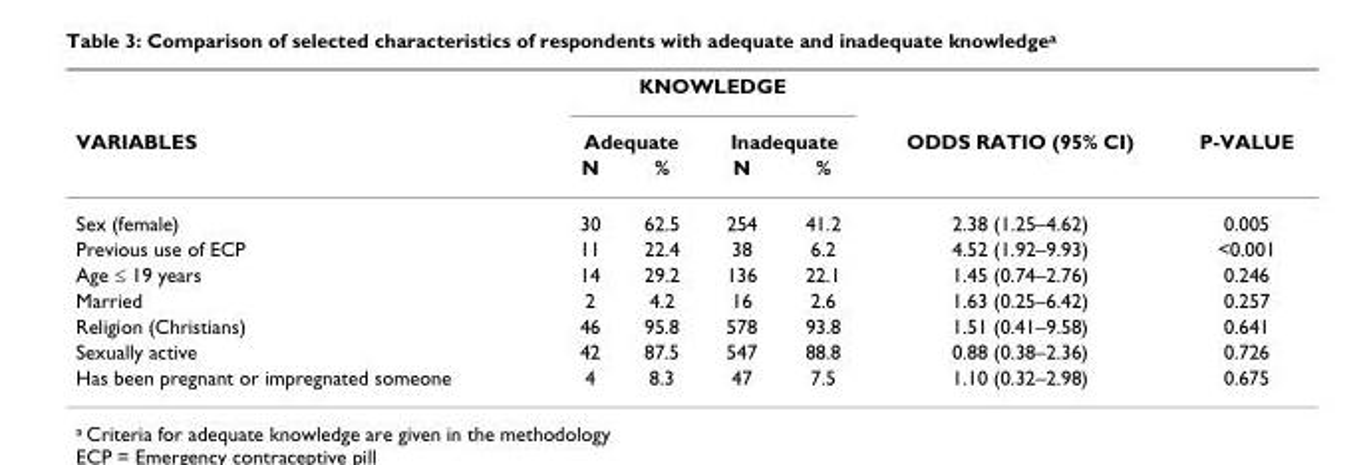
<table><thead><tr><td rowspan="3">VARIABLES</td><td colspan="4">KNOWLEDGE</td><td rowspan="3">ODDS RATIO (95% CI)</td><td rowspan="3">P-VALUE</td></tr><tr><td colspan="2">Adequate</td><td colspan="2">Inadequate</td></tr><tr><td>N</td><td>%</td><td>N</td><td>%</td></tr></thead><tbody><tr><td>Sex (female)</td><td>30</td><td>62.5</td><td>254</td><td>41.2</td><td>2.38 (1.25–4.62)</td><td>0.005</td></tr><tr><td>Previous use of ECP</td><td>11</td><td>22.4</td><td>38</td><td>6.2</td><td>4.52 (1.92–9.93)</td><td>&lt;0.001</td></tr><tr><td>Age ≤ 19 years</td><td>14</td><td>29.2</td><td>136</td><td>22.1</td><td>1.45 (0.74–2.76)</td><td>0.246</td></tr><tr><td>Married</td><td>2</td><td>4.2</td><td>16</td><td>2.6</td><td>1.63 (0.25–6.42)</td><td>0.257</td></tr><tr><td>Religion (Christians)</td><td>46</td><td>95.8</td><td>578</td><td>93.8</td><td>1.51 (0.41–9.58)</td><td>0.641</td></tr><tr><td>Sexually active</td><td>42</td><td>87.5</td><td>547</td><td>88.8</td><td>0.88 (0.38–2.36)</td><td>0.726</td></tr><tr><td>Has been pregnant or impregnated someone</td><td>4</td><td>8.3</td><td>47</td><td>7.5</td><td>1.10 (0.32–2.98)</td><td>0.675</td></tr></tbody></table>